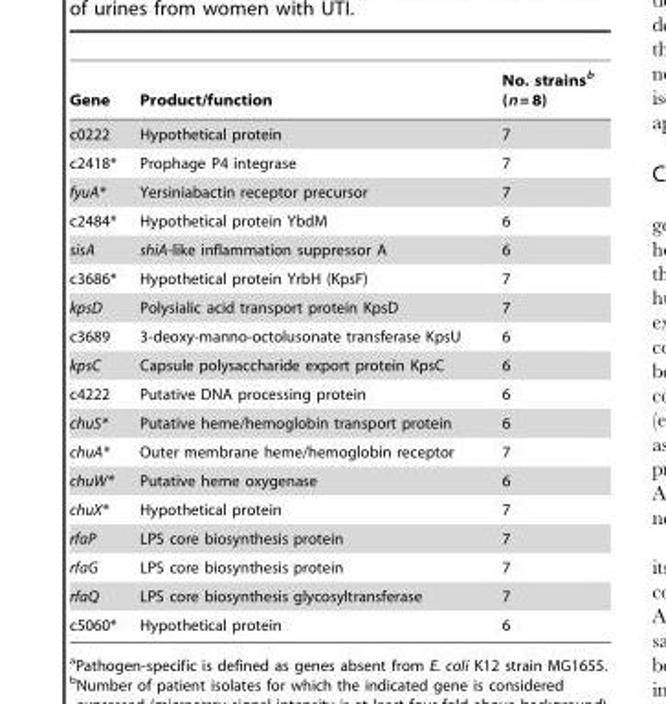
<table><thead><tr><td>Gene</td><td>Product/function</td><td>No. strains<sup>b</sup> (n = 8)</td></tr></thead><tbody><tr><td>c0222</td><td>Hypothetical protein</td><td>7</td></tr><tr><td>c2418*</td><td>Prophage P4 integrase</td><td>7</td></tr><tr><td>fyuA*</td><td>Yersiniabactin receptor precursor</td><td>7</td></tr><tr><td>c2484*</td><td>Hypothetical protein YbdM</td><td>6</td></tr><tr><td>sisA</td><td>shiA-like inflammation suppressor A</td><td>6</td></tr><tr><td>c3686*</td><td>Hypothetical protein YrbH (KpsF)</td><td>7</td></tr><tr><td>kpsD</td><td>Polysialic acid transport protein KpsD</td><td>7</td></tr><tr><td>c3689</td><td>3-deoxy-manno-octolusonate transferase KpsU</td><td>6</td></tr><tr><td>kpsC</td><td>Capsule polysaccharide export protein KpsC</td><td>6</td></tr><tr><td>c4222</td><td>Putative DNA processing protein</td><td>6</td></tr><tr><td>chuS*</td><td>Putative heme/hemoglobin transport protein</td><td>6</td></tr><tr><td>chuA*</td><td>Outer membrane heme/hemoglobin receptor</td><td>7</td></tr><tr><td>chuW*</td><td>Putative heme oxygenase</td><td>6</td></tr><tr><td>chuX*</td><td>Hypothetical protein</td><td>7</td></tr><tr><td>rfaP</td><td>LPS core biosynthesis protein</td><td>7</td></tr><tr><td>rfaG</td><td>LPS core biosynthesis protein</td><td>7</td></tr><tr><td>rfaQ</td><td>LPS core biosynthesis glycosyltransferase</td><td>7</td></tr><tr><td>c5060*</td><td>Hypothetical protein</td><td>6</td></tr></tbody></table>